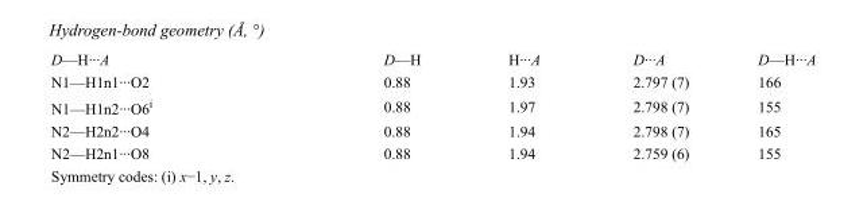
<table><tbody><tr><td>D—H···A</td><td>D—H</td><td>H···A</td><td>D···A</td><td>D—H···A</td></tr><tr><td>N1—H1n1···O2</td><td>0.88</td><td>1.93</td><td>2.797 (7)</td><td>166</td></tr><tr><td>N1—H1n2···O6<sup>i</sup></td><td>0.88</td><td>1.97</td><td>2.798 (7)</td><td>155</td></tr><tr><td>N2—H2n2···O4</td><td>0.88</td><td>1.94</td><td>2.798 (7)</td><td>165</td></tr><tr><td>N2—H2n1···O8</td><td>0.88</td><td>1.94</td><td>2.759 (6)</td><td>155</td></tr></tbody></table>